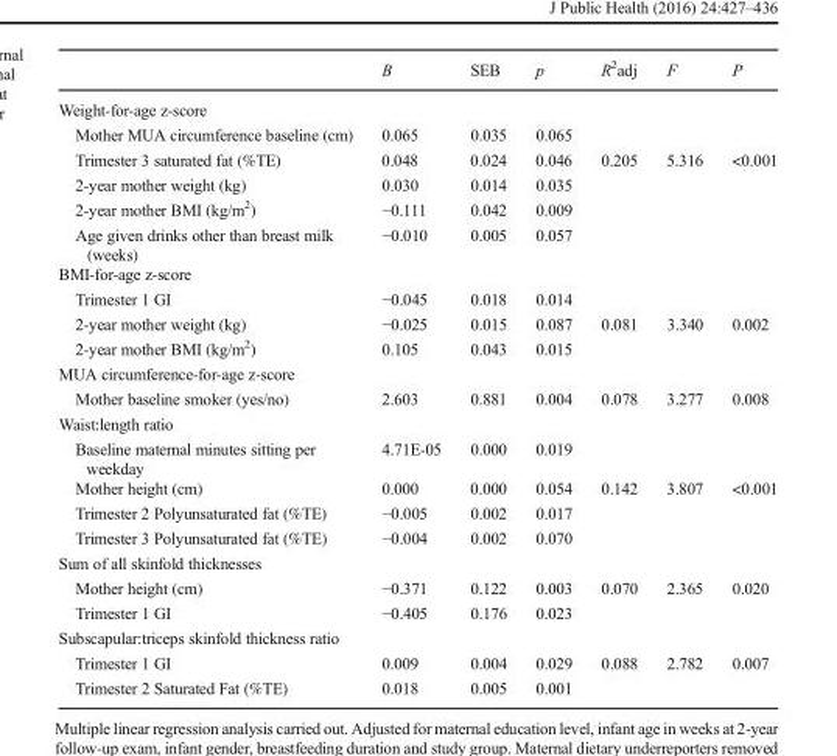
<table><thead><tr><td></td><td>B</td><td>SEB</td><td>p</td><td>R<sup>2</sup>adj</td><td>F</td><td>P</td></tr></thead><tbody><tr><td colspan="7">Weight-for-age z-score</td></tr><tr><td>Mother MUA circumference baseline (cm)</td><td>0.065</td><td>0.035</td><td>0.065</td><td></td><td></td><td></td></tr><tr><td>Trimester 3 saturated fat (%TE)</td><td>0.048</td><td>0.024</td><td>0.046</td><td>0.205</td><td>5.316</td><td>&lt;0.001</td></tr><tr><td>2-year mother weight (kg)</td><td>0.030</td><td>0.014</td><td>0.035</td><td></td><td></td><td></td></tr><tr><td>2-year mother BMI (kg/m<sup>2</sup>)</td><td>−0.111</td><td>0.042</td><td>0.009</td><td></td><td></td><td></td></tr><tr><td>Age given drinks other than breast milk (weeks)</td><td>−0.010</td><td>0.005</td><td>0.057</td><td></td><td></td><td></td></tr><tr><td colspan="7">BMI-for-age z-score</td></tr><tr><td>Trimester 1 GI</td><td>−0.045</td><td>0.018</td><td>0.014</td><td></td><td></td><td></td></tr><tr><td>2-year mother weight (kg)</td><td>−0.025</td><td>0.015</td><td>0.087</td><td>0.081</td><td>3.340</td><td>0.002</td></tr><tr><td>2-year mother BMI (kg/m<sup>2</sup>)</td><td>0.105</td><td>0.043</td><td>0.015</td><td></td><td></td><td></td></tr><tr><td colspan="7">MUA circumference-for-age z-score</td></tr><tr><td>Mother baseline smoker (yes/no)</td><td>2.603</td><td>0.881</td><td>0.004</td><td>0.078</td><td>3.277</td><td>0.008</td></tr><tr><td colspan="7">Waist:length ratio</td></tr><tr><td>Baseline maternal minutes sitting per weekday</td><td>4.71E-05</td><td>0.000</td><td>0.019</td><td></td><td></td><td></td></tr><tr><td>Mother height (cm)</td><td>0.000</td><td>0.000</td><td>0.054</td><td>0.142</td><td>3.807</td><td>&lt;0.001</td></tr><tr><td>Trimester 2 Polyunsaturated fat (%TE)</td><td>−0.005</td><td>0.002</td><td>0.017</td><td></td><td></td><td></td></tr><tr><td>Trimester 3 Polyunsaturated fat (%TE)</td><td>−0.004</td><td>0.002</td><td>0.070</td><td></td><td></td><td></td></tr><tr><td colspan="7">Sum of all skinfold thicknesses</td></tr><tr><td>Mother height (cm)</td><td>−0.371</td><td>0.122</td><td>0.003</td><td>0.070</td><td>2.365</td><td>0.020</td></tr><tr><td>Trimester 1 GI</td><td>−0.405</td><td>0.176</td><td>0.023</td><td></td><td></td><td></td></tr><tr><td colspan="7">Subscapular:triceps skinfold thickness ratio</td></tr><tr><td>Trimester 1 GI</td><td>0.009</td><td>0.004</td><td>0.029</td><td>0.088</td><td>2.782</td><td>0.007</td></tr><tr><td>Trimester 2 Saturated Fat (%TE)</td><td>0.018</td><td>0.005</td><td>0.001</td><td></td><td></td><td></td></tr></tbody></table>